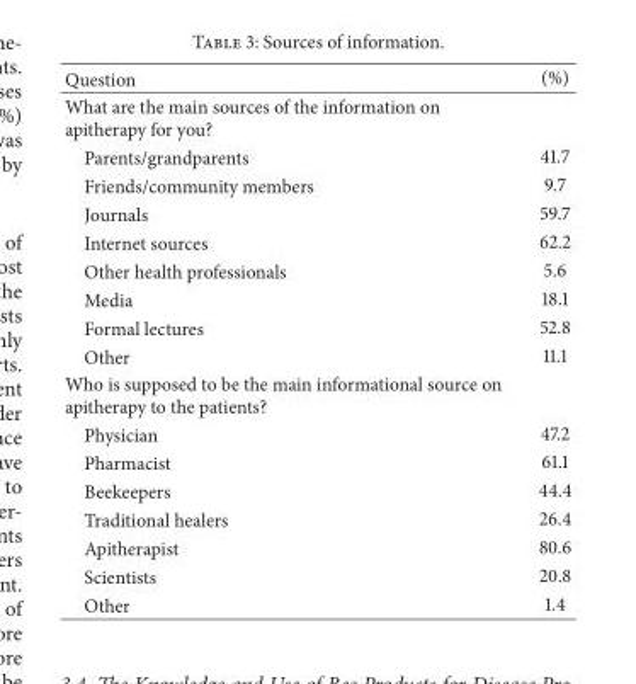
<table><thead><tr><td>Question</td><td>(%)</td></tr></thead><tbody><tr><td colspan="2">What are the main sources of the information on apitherapy for you?</td></tr><tr><td>Parents/grandparents</td><td>41.7</td></tr><tr><td>Friends/community members</td><td>9.7</td></tr><tr><td>Journals</td><td>59.7</td></tr><tr><td>Internet sources</td><td>62.2</td></tr><tr><td>Other health professionals</td><td>5.6</td></tr><tr><td>Media</td><td>18.1</td></tr><tr><td>Formal lectures</td><td>52.8</td></tr><tr><td>Other</td><td>11.1</td></tr><tr><td colspan="2">Who is supposed to be the main informational source on apitherapy to the patients?</td></tr><tr><td>Physician</td><td>47.2</td></tr><tr><td>Pharmacist</td><td>61.1</td></tr><tr><td>Beekeepers</td><td>44.4</td></tr><tr><td>Traditional healers</td><td>26.4</td></tr><tr><td>Apitherapist</td><td>80.6</td></tr><tr><td>Scientists</td><td>20.8</td></tr><tr><td>Other</td><td>1.4</td></tr></tbody></table>